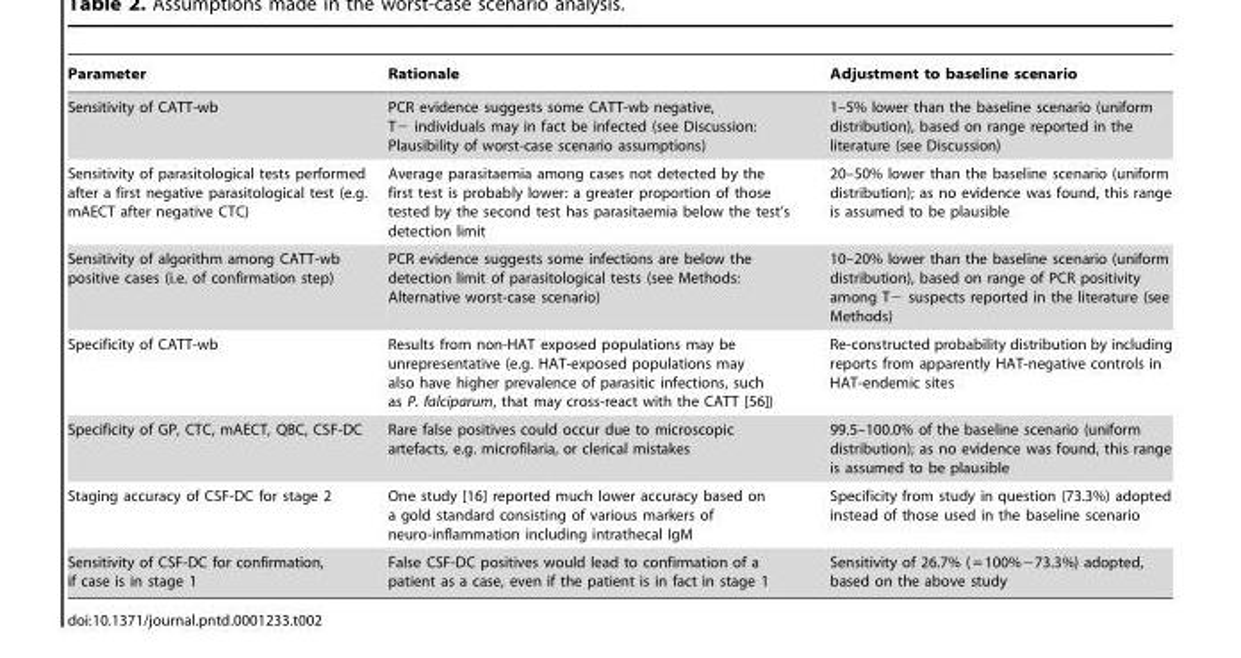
<table><thead><tr><td>Parameter</td><td>Rationale</td><td>Adjustment to baseline scenario</td></tr></thead><tbody><tr><td>Sensitivity of CATT-wb</td><td>PCR evidence suggests some CATT-wb negative, T− individuals may in fact be infected (see Discussion: Plausibility of worst-case scenario assumptions)</td><td>1–5% lower than the baseline scenario (uniform distribution), based on range reported in the literature (see Discussion)</td></tr><tr><td>Sensitivity of parasitological tests performed after a first negative parasitological test (e.g. mAECT after negative CTC)</td><td>Average parasitaemia among cases not detected by the first test is probably lower: a greater proportion of those tested by the second test has parasitaemia below the test’s detection limit</td><td>20–50% lower than the baseline scenario (uniform distribution); as no evidence was found, this range is assumed to be plausible</td></tr><tr><td>Sensitivity of algorithm among CATT-wb positive cases (i.e. of confirmation step)</td><td>PCR evidence suggests some infections are below the detection limit of parasitological tests (see Methods: Alternative worst-case scenario)</td><td>10–20% lower than the baseline scenario (uniform distribution), based on range of PCR positivity among T− suspects reported in the literature (see Methods)</td></tr><tr><td>Specificity of CATT-wb</td><td>Results from non-HAT exposed populations may be unrepresentative (e.g. HAT-exposed populations may also have higher prevalence of parasitic infections, such as P. falciparum, that may cross-react with the CATT [56])</td><td>Re-constructed probability distribution by including reports from apparently HAT-negative controls in HAT-endemic sites</td></tr><tr><td>Specificity of GP, CTC, mAECT, QBC, CSF-DC</td><td>Rare false positives could occur due to microscopic artefacts, e.g. microfilaria, or clerical mistakes</td><td>99.5–100.0% of the baseline scenario (uniform distribution); as no evidence was found, this range is assumed to be plausible</td></tr><tr><td>Staging accuracy of CSF-DC for stage 2</td><td>One study [16] reported much lower accuracy based on a gold standard consisting of various markers of neuro-inflammation including intrathecal IgM</td><td>Specificity from study in question (73.3%) adopted instead of those used in the baseline scenario</td></tr><tr><td>Sensitivity of CSF-DC for confirmation, if case is in stage 1</td><td>False CSF-DC positives would lead to confirmation of a patient as a case, even if the patient is in fact in stage 1</td><td>Sensitivity of 26.7% ( = 100%−73.3%) adopted, based on the above study</td></tr></tbody></table>